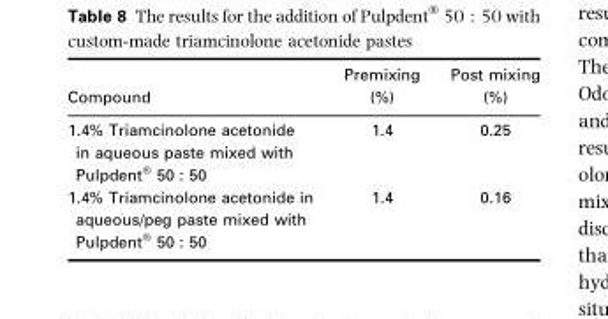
<table><thead><tr><td>Compound</td><td>Premixing (%)</td><td>Post mixing (%)</td></tr></thead><tbody><tr><td>1.4% Triamcinolone acetonide in aqueous paste mixed with Pulpdent® 50 : 50</td><td>1.4</td><td>0.25</td></tr><tr><td>1.4% Triamcinolone acetonide in aqueous/peg paste mixed with Pulpdent® 50 : 50</td><td>1.4</td><td>0.16</td></tr></tbody></table>